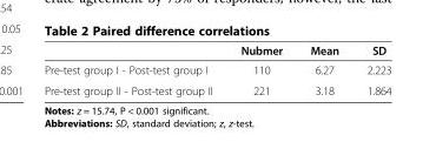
<table><thead><tr><td></td><td>Nubmer</td><td>Mean</td><td>SD</td></tr></thead><tbody><tr><td>Pre-test group I - Post-test group I</td><td>110</td><td>6.27</td><td>2.223</td></tr><tr><td>Pre-test group II - Post-test group II</td><td>221</td><td>3.18</td><td>1.864</td></tr></tbody></table>